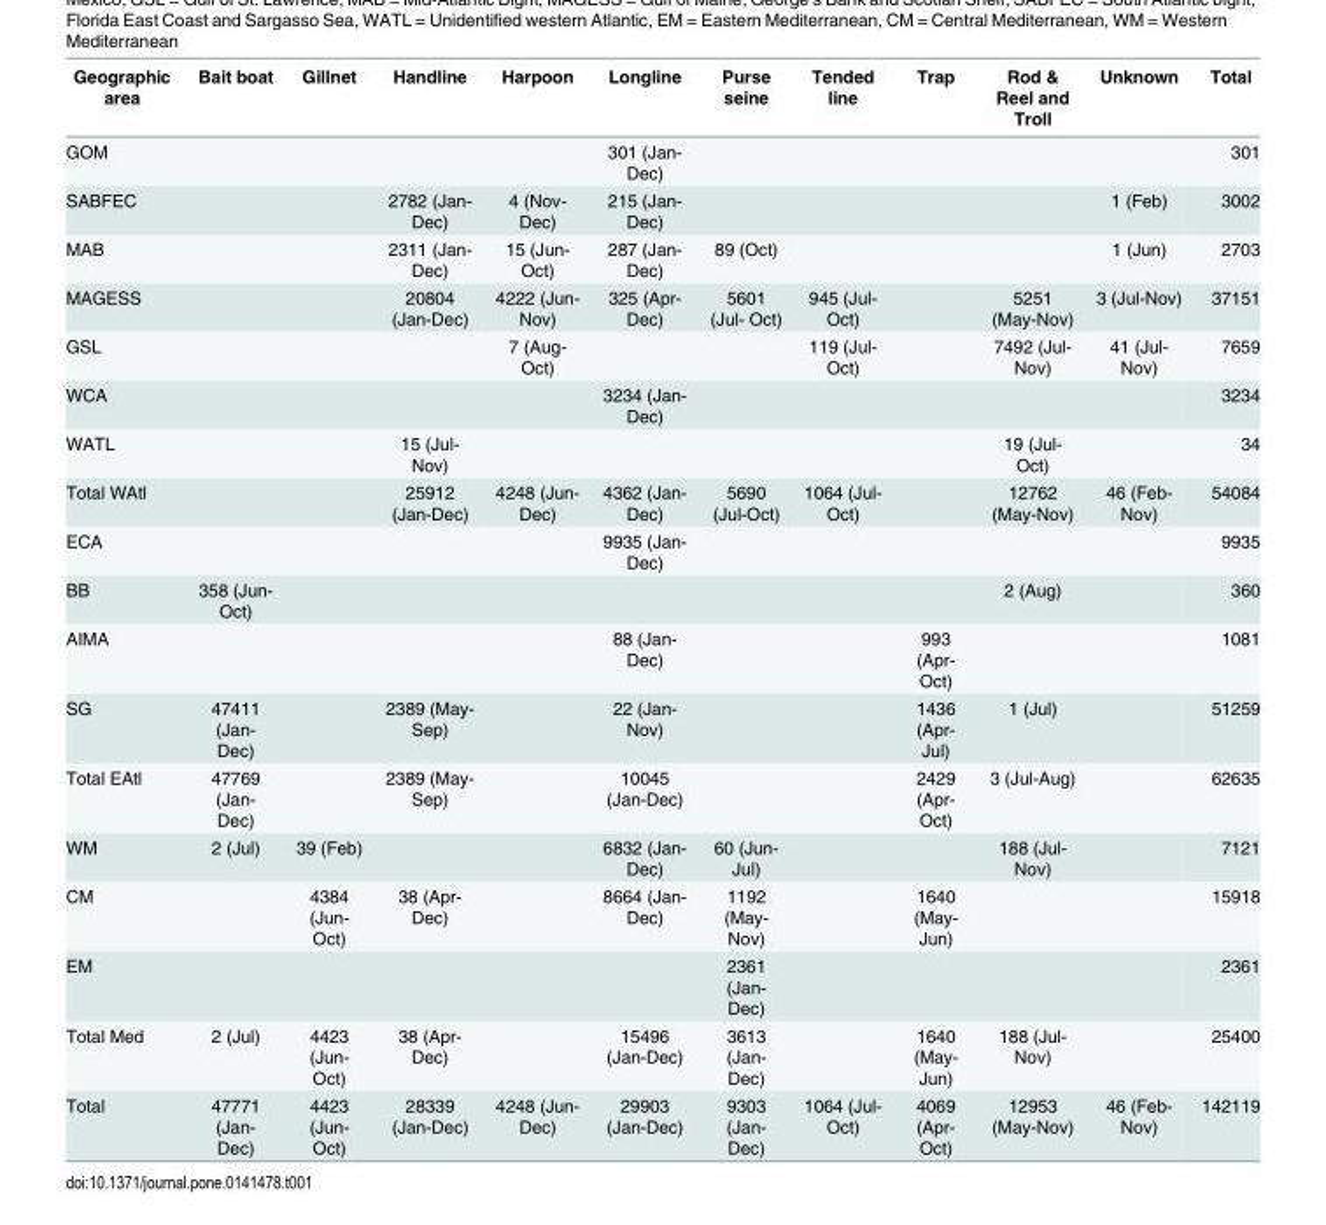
<table><thead><tr><td>Geographic area</td><td>Bait boat</td><td>Gillnet</td><td>Handline</td><td>Harpoon</td><td>Longline</td><td>Purse seine</td><td>Tended line</td><td>Trap</td><td>Rod &amp; Reel and Troll</td><td>Unknown</td><td>Total</td></tr></thead><tbody><tr><td>GOM</td><td></td><td></td><td></td><td></td><td>301 (Jan- Dec)</td><td></td><td></td><td></td><td></td><td></td><td>301</td></tr><tr><td>SABFEC</td><td></td><td></td><td>2782 (Jan- Dec)</td><td>4 (Nov- Dec)</td><td>215 (Jan- Dec)</td><td></td><td></td><td></td><td></td><td>1 (Feb)</td><td>3002</td></tr><tr><td>MAB</td><td></td><td></td><td>2311 (Jan- Dec)</td><td>15 (Jun- Oct)</td><td>287 (Jan- Dec)</td><td>89 (Oct)</td><td></td><td></td><td></td><td>1 (Jun)</td><td>2703</td></tr><tr><td>MAGESS</td><td></td><td></td><td>20804 (Jan-Dec)</td><td>4222 (Jun- Nov)</td><td>325 (Apr- Dec)</td><td>5601 (Jul- Oct)</td><td>945 (Jul- Oct)</td><td></td><td>5251 (May-Nov)</td><td>3 (Jul-Nov)</td><td>37151</td></tr><tr><td>GSL</td><td></td><td></td><td></td><td>7 (Aug- Oct)</td><td></td><td></td><td>119 (Jul- Oct)</td><td></td><td>7492 (Jul- Nov)</td><td>41 (Jul- Nov)</td><td>7659</td></tr><tr><td>WCA</td><td></td><td></td><td></td><td></td><td>3234 (Jan- Dec)</td><td></td><td></td><td></td><td></td><td></td><td>3234</td></tr><tr><td>WATL</td><td></td><td></td><td>15 (Jul- Nov)</td><td></td><td></td><td></td><td></td><td></td><td>19 (Jul- Oct)</td><td></td><td>34</td></tr><tr><td>Total WAtl</td><td></td><td></td><td>25912 (Jan-Dec)</td><td>4248 (Jun- Dec)</td><td>4362 (Jan- Dec)</td><td>5690 (Jul-Oct)</td><td>1064 (Jul- Oct)</td><td></td><td>12762 (May-Nov)</td><td>46 (Feb- Nov)</td><td>54084</td></tr><tr><td>ECA</td><td></td><td></td><td></td><td></td><td>9935 (Jan- Dec)</td><td></td><td></td><td></td><td></td><td></td><td>9935</td></tr><tr><td>BB</td><td>358 (Jun- Oct)</td><td></td><td></td><td></td><td></td><td></td><td></td><td></td><td>2 (Aug)</td><td></td><td>360</td></tr><tr><td>AIMA</td><td></td><td></td><td></td><td></td><td>88 (Jan- Dec)</td><td></td><td></td><td>993 (Apr- Oct)</td><td></td><td></td><td>1081</td></tr><tr><td>SG</td><td>47411 (Jan- Dec)</td><td></td><td>2389 (May- Sep)</td><td></td><td>22 (Jan- Nov)</td><td></td><td></td><td>1436 (Apr- Jul)</td><td>1 (Jul)</td><td></td><td>51259</td></tr><tr><td>Total EAtl</td><td>47769 (Jan- Dec)</td><td></td><td>2389 (May- Sep)</td><td></td><td>10045 (Jan-Dec)</td><td></td><td></td><td>2429 (Apr- Oct)</td><td>3 (Jul-Aug)</td><td></td><td>62635</td></tr><tr><td>WM</td><td>2 (Jul)</td><td>39 (Feb)</td><td></td><td></td><td>6832 (Jan- Dec)</td><td>60 (Jun- Jul)</td><td></td><td></td><td>188 (Jul- Nov)</td><td></td><td>7121</td></tr><tr><td>CM</td><td></td><td>4384 (Jun- Oct)</td><td>38 (Apr- Dec)</td><td></td><td>8664 (Jan- Dec)</td><td>1192 (May- Nov)</td><td></td><td>1640 (May- Jun)</td><td></td><td></td><td>15918</td></tr><tr><td>EM</td><td></td><td></td><td></td><td></td><td></td><td>2361 (Jan- Dec)</td><td></td><td></td><td></td><td></td><td>2361</td></tr><tr><td>Total Med</td><td>2 (Jul)</td><td>4423 (Jun- Oct)</td><td>38 (Apr- Dec)</td><td></td><td>15496 (Jan-Dec)</td><td>3613 (Jan- Dec)</td><td></td><td>1640 (May- Jun)</td><td>188 (Jul- Nov)</td><td></td><td>25400</td></tr><tr><td>Total</td><td>47771 (Jan- Dec)</td><td>4423 (Jun- Oct)</td><td>28339 (Jan-Dec)</td><td>4248 (Jun- Dec)</td><td>29903 (Jan-Dec)</td><td>9303 (Jan- Dec)</td><td>1064 (Jul- Oct)</td><td>4069 (Apr- Oct)</td><td>12953 (May-Nov)</td><td>46 (Feb- Nov)</td><td>142119</td></tr></tbody></table>